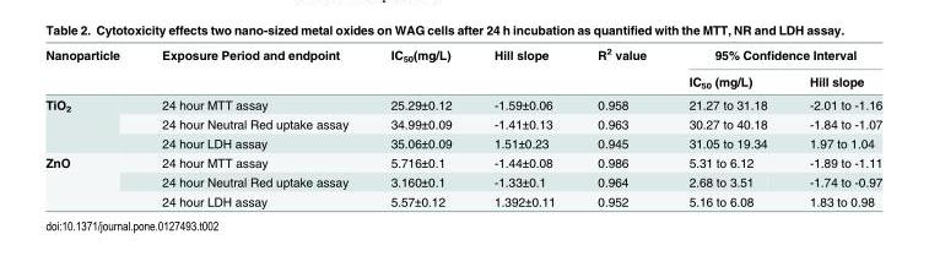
<table><thead><tr><td rowspan="2">Nanoparticle</td><td rowspan="2">Exposure Period and endpoint</td><td rowspan="2">IC<sub>50</sub>(mg/L)</td><td rowspan="2">Hill slope</td><td rowspan="2">R<sup>2</sup> value</td><td colspan="2">95% Confidence Interval</td></tr><tr><td>IC<sub>50</sub> (mg/L)</td><td>Hill slope</td></tr></thead><tbody><tr><td rowspan="3">TiO<sub>2</sub></td><td>24 hour MTT assay</td><td>25.29±0.12</td><td>-1.59±0.06</td><td>0.958</td><td>21.27 to 31.18</td><td>-2.01 to -1.16</td></tr><tr><td>24 hour Neutral Red uptake assay</td><td>34.99±0.09</td><td>-1.41±0.13</td><td>0.963</td><td>30.27 to 40.18</td><td>-1.84 to -1.07</td></tr><tr><td>24 hour LDH assay</td><td>35.06±0.09</td><td>1.51±0.23</td><td>0.945</td><td>31.05 to 19.34</td><td>1.97 to 1.04</td></tr><tr><td rowspan="3">ZnO</td><td>24 hour MTT assay</td><td>5.716±0.1</td><td>-1.44±0.08</td><td>0.986</td><td>5.31 to 6.12</td><td>-1.89 to -1.11</td></tr><tr><td>24 hour Neutral Red uptake assay</td><td>3.160±0.1</td><td>-1.33±0.1</td><td>0.964</td><td>2.68 to 3.51</td><td>-1.74 to -0.97</td></tr><tr><td>24 hour LDH assay</td><td>5.57±0.12</td><td>1.392±0.11</td><td>0.952</td><td>5.16 to 6.08</td><td>1.83 to 0.98</td></tr></tbody></table>